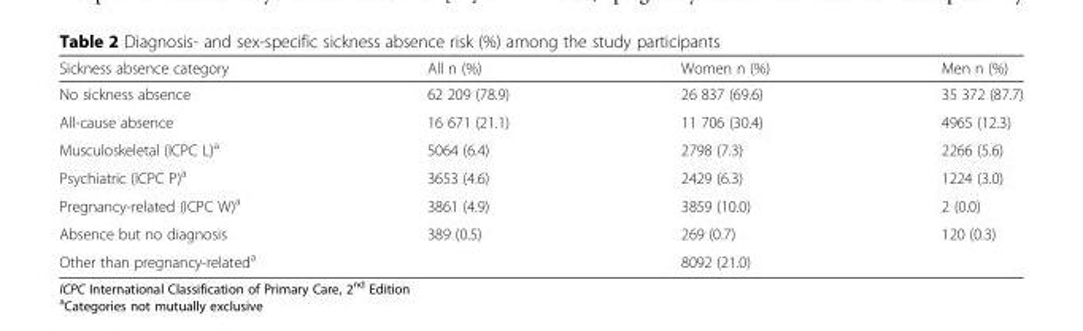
<table><thead><tr><td>Sickness absence category</td><td>All n (%)</td><td>Women n (%)</td><td>Men n (%)</td></tr></thead><tbody><tr><td>No sickness absence</td><td>62 209 (78.9)</td><td>26 837 (69.6)</td><td>35 372 (87.7)</td></tr><tr><td>All-cause absence</td><td>16 671 (21.1)</td><td>11 706 (30.4)</td><td>4965 (12.3)</td></tr><tr><td>Musculoskeletal (ICPC L)<sup>a</sup></td><td>5064 (6.4)</td><td>2798 (7.3)</td><td>2266 (5.6)</td></tr><tr><td>Psychiatric (ICPC P)<sup>a</sup></td><td>3653 (4.6)</td><td>2429 (6.3)</td><td>1224 (3.0)</td></tr><tr><td>Pregnancy-related (ICPC W)<sup>a</sup></td><td>3861 (4.9)</td><td>3859 (10.0)</td><td>2 (0.0)</td></tr><tr><td>Absence but no diagnosis</td><td>389 (0.5)</td><td>269 (0.7)</td><td>120 (0.3)</td></tr><tr><td>Other than pregnancy-related<sup>a</sup></td><td></td><td>8092 (21.0)</td><td></td></tr></tbody></table>